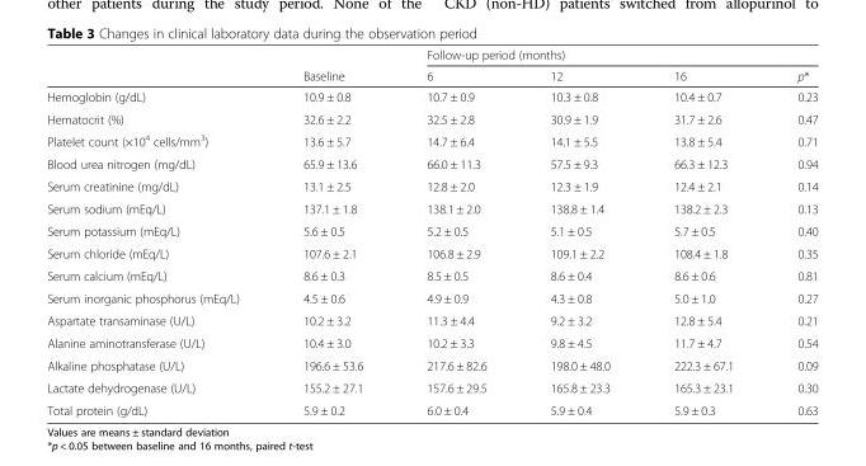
<table><thead><tr><td rowspan="2"></td><td rowspan="2">Baseline</td><td colspan="4">Follow-up period (months)</td></tr><tr><td>6</td><td>12</td><td>16</td><td>p*</td></tr></thead><tbody><tr><td>Hemoglobin (g/dL)</td><td>10.9 ± 0.8</td><td>10.7 ± 0.9</td><td>10.3 ± 0.8</td><td>10.4 ± 0.7</td><td>0.23</td></tr><tr><td>Hematocrit (%)</td><td>32.6 ± 2.2</td><td>32.5 ± 2.8</td><td>30.9 ± 1.9</td><td>31.7 ± 2.6</td><td>0.47</td></tr><tr><td>Platelet count (×10<sup>4</sup> cells/mm<sup>3</sup>)</td><td>13.6 ± 5.7</td><td>14.7 ± 6.4</td><td>14.1 ± 5.5</td><td>13.8 ± 5.4</td><td>0.71</td></tr><tr><td>Blood urea nitrogen (mg/dL)</td><td>65.9 ± 13.6</td><td>66.0 ± 11.3</td><td>57.5 ± 9.3</td><td>66.3 ± 12.3</td><td>0.94</td></tr><tr><td>Serum creatinine (mg/dL)</td><td>13.1 ± 2.5</td><td>12.8 ± 2.0</td><td>12.3 ± 1.9</td><td>12.4 ± 2.1</td><td>0.14</td></tr><tr><td>Serum sodium (mEq/L)</td><td>137.1 ± 1.8</td><td>138.1 ± 2.0</td><td>138.8 ± 1.4</td><td>138.2 ± 2.3</td><td>0.13</td></tr><tr><td>Serum potassium (mEq/L)</td><td>5.6 ± 0.5</td><td>5.2 ± 0.5</td><td>5.1 ± 0.5</td><td>5.7 ± 0.5</td><td>0.40</td></tr><tr><td>Serum chloride (mEq/L)</td><td>107.6 ± 2.1</td><td>106.8 ± 2.9</td><td>109.1 ± 2.2</td><td>108.4 ± 1.8</td><td>0.35</td></tr><tr><td>Serum calcium (mEq/L)</td><td>8.6 ± 0.3</td><td>8.5 ± 0.5</td><td>8.6 ± 0.4</td><td>8.6 ± 0.6</td><td>0.81</td></tr><tr><td>Serum inorganic phosphorus (mEq/L)</td><td>4.5 ± 0.6</td><td>4.9 ± 0.9</td><td>4.3 ± 0.8</td><td>5.0 ± 1.0</td><td>0.27</td></tr><tr><td>Aspartate transaminase (U/L)</td><td>10.2 ± 3.2</td><td>11.3 ± 4.4</td><td>9.2 ± 3.2</td><td>12.8 ± 5.4</td><td>0.21</td></tr><tr><td>Alanine aminotransferase (U/L)</td><td>10.4 ± 3.0</td><td>10.2 ± 3.3</td><td>9.8 ± 4.5</td><td>11.7 ± 4.7</td><td>0.54</td></tr><tr><td>Alkaline phosphatase (U/L)</td><td>196.6 ± 53.6</td><td>217.6 ± 82.6</td><td>198.0 ± 48.0</td><td>222.3 ± 67.1</td><td>0.09</td></tr><tr><td>Lactate dehydrogenase (U/L)</td><td>155.2 ± 27.1</td><td>157.6 ± 29.5</td><td>165.8 ± 23.3</td><td>165.3 ± 23.1</td><td>0.30</td></tr><tr><td>Total protein (g/dL)</td><td>5.9 ± 0.2</td><td>6.0 ± 0.4</td><td>5.9 ± 0.4</td><td>5.9 ± 0.3</td><td>0.63</td></tr></tbody></table>